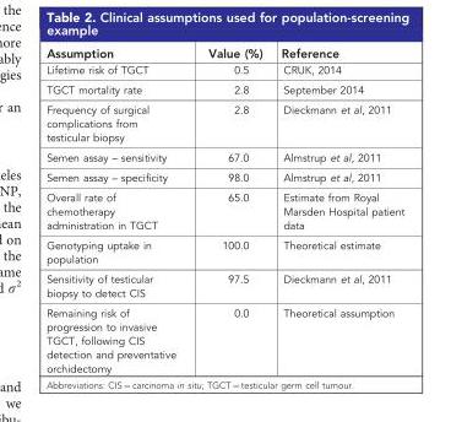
<table><thead><tr><td>Assumption</td><td>Value (%)</td><td>Reference</td></tr></thead><tbody><tr><td>Lifetime risk of TGCT</td><td>0.5</td><td>CRUK, 2014</td></tr><tr><td>TGCT mortality rate</td><td>2.8</td><td>September 2014</td></tr><tr><td>Frequency of surgical complications from testicular biopsy</td><td>2.8</td><td>Dieckmann et al, 2011</td></tr><tr><td>Semen assay – sensitivity</td><td>67.0</td><td>Almstrup et al, 2011</td></tr><tr><td>Semen assay – specificity</td><td>98.0</td><td>Almstrup et al, 2011</td></tr><tr><td>Overall rate of chemotherapy administration in TGCT</td><td>65.0</td><td>Estimate from Royal Marsden Hospital patient data</td></tr><tr><td>Genotyping uptake in population</td><td>100.0</td><td>Theoretical estimate</td></tr><tr><td>Sensitivity of testicular biopsy to detect CIS</td><td>97.5</td><td>Dieckmann et al, 2011</td></tr><tr><td>Remaining risk of progression to invasive TGCT, following CIS detection and preventative orchidectomy</td><td>0.0</td><td>Theoretical assumption</td></tr></tbody></table>